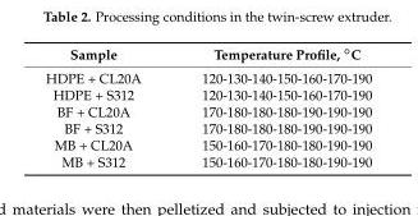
<table><thead><tr><td>Sample</td><td>Temperature Profile, ◦C</td></tr></thead><tbody><tr><td>HDPE + CL20A</td><td>120-130-140-150-160-170-190</td></tr><tr><td>HDPE + S312</td><td>120-130-140-150-160-170-190</td></tr><tr><td>BF + CL20A</td><td>170-180-180-180-190-190-190</td></tr><tr><td>BF + S312</td><td>170-180-180-180-190-190-190</td></tr><tr><td>MB + CL20A</td><td>150-160-170-180-180-190-190</td></tr><tr><td>MB + S312</td><td>150-160-170-180-180-190-190</td></tr></tbody></table>